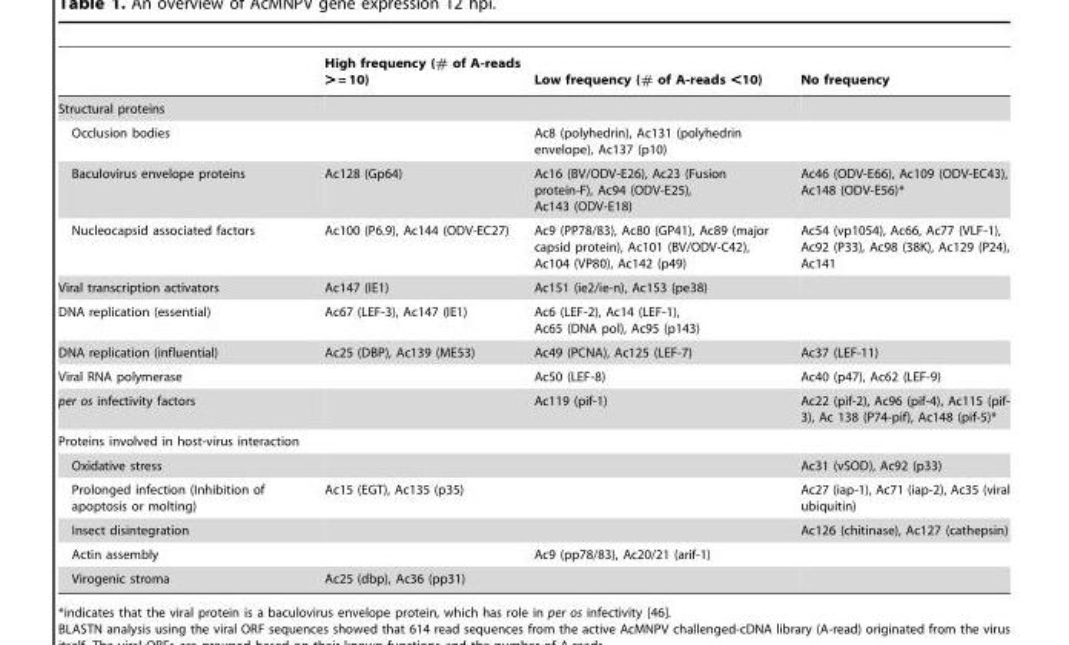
<table><thead><tr><td></td><td>High frequency (# of A-reads &gt; = 10)</td><td>Low frequency (# of A-reads &lt;10)</td><td>No frequency</td></tr></thead><tbody><tr><td colspan="4">Structural proteins</td></tr><tr><td>Occlusion bodies</td><td></td><td>Ac8 (polyhedrin), Ac131 (polyhedrin envelope), Ac137 (p10)</td><td></td></tr><tr><td>Baculovirus envelope proteins</td><td>Ac128 (Gp64)</td><td>Ac16 (BV/ODV-E26), Ac23 (Fusion protein-F), Ac94 (ODV-E25), Ac143 (ODV-E18)</td><td>Ac46 (ODV-E66), Ac109 (ODV-EC43), Ac148 (ODV-E56)*</td></tr><tr><td>Nucleocapsid associated factors</td><td>Ac100 (P6.9), Ac144 (ODV-EC27)</td><td>Ac9 (PP78/83), Ac80 (GP41), Ac89 (major capsid protein), Ac101 (BV/ODV-C42), Ac104 (VP80), Ac142 (p49)</td><td>Ac54 (vp1054), Ac66, Ac77 (VLF-1), Ac92 (P33), Ac98 (38K), Ac129 (P24), Ac141</td></tr><tr><td>Viral transcription activators</td><td>Ac147 (IE1)</td><td>Ac151 (ie2/ie-n), Ac153 (pe38)</td><td></td></tr><tr><td>DNA replication (essential)</td><td>Ac67 (LEF-3), Ac147 (IE1)</td><td>Ac6 (LEF-2), Ac14 (LEF-1), Ac65 (DNA pol), Ac95 (p143)</td><td></td></tr><tr><td>DNA replication (influential)</td><td>Ac25 (DBP), Ac139 (ME53)</td><td>Ac49 (PCNA), Ac125 (LEF-7)</td><td>Ac37 (LEF-11)</td></tr><tr><td>Viral RNA polymerase</td><td></td><td>Ac50 (LEF-8)</td><td>Ac40 (p47), Ac62 (LEF-9)</td></tr><tr><td>per os infectivity factors</td><td></td><td>Ac119 (pif-1)</td><td>Ac22 (pif-2), Ac96 (pif-4), Ac115 (pif- 3), Ac 138 (P74-pif), Ac148 (pif-5)*</td></tr><tr><td colspan="4">Proteins involved in host-virus interaction</td></tr><tr><td>Oxidative stress</td><td></td><td></td><td>Ac31 (vSOD), Ac92 (p33)</td></tr><tr><td>Prolonged infection (Inhibition of apoptosis or molting)</td><td>Ac15 (EGT), Ac135 (p35)</td><td></td><td>Ac27 (iap-1), Ac71 (iap-2), Ac35 (viral ubiquitin)</td></tr><tr><td>Insect disintegration</td><td></td><td></td><td>Ac126 (chitinase), Ac127 (cathepsin)</td></tr><tr><td>Actin assembly</td><td></td><td>Ac9 (pp78/83), Ac20/21 (arif-1)</td><td></td></tr><tr><td>Virogenic stroma</td><td>Ac25 (dbp), Ac36 (pp31)</td><td></td><td></td></tr></tbody></table>